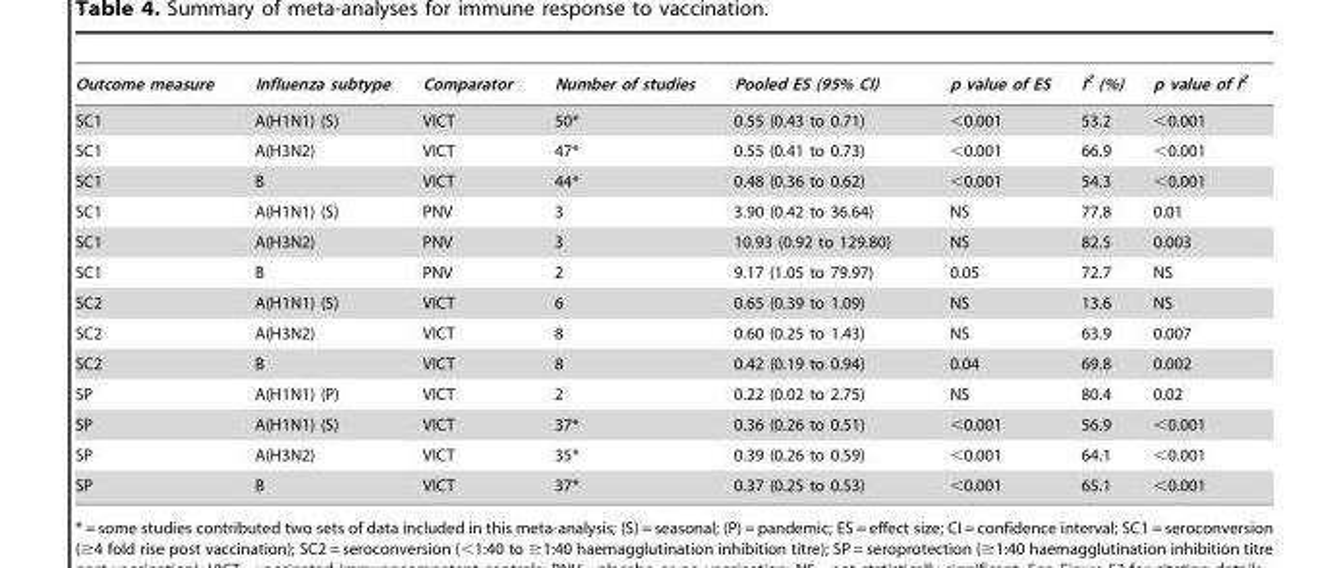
<table><thead><tr><td>Outcome measure</td><td>Influenza subtype</td><td>Comparator</td><td>Number of studies</td><td>Pooled ES (95% CI)</td><td>p value of ES</td><td>I<sup>2</sup> (%)</td><td>p value of I<sup>2</sup></td></tr></thead><tbody><tr><td>SC1</td><td>A(H1N1) (S)</td><td>VICT</td><td>50*</td><td>0.55 (0.43 to 0.71)</td><td>&lt;0.001</td><td>53.2</td><td>&lt;0.001</td></tr><tr><td>SC1</td><td>A(H3N2)</td><td>VICT</td><td>47*</td><td>0.55 (0.41 to 0.73)</td><td>&lt;0.001</td><td>66.9</td><td>&lt;0.001</td></tr><tr><td>SC1</td><td>B</td><td>VICT</td><td>44*</td><td>0.48 (0.36 to 0.62)</td><td>&lt;0.001</td><td>54.3</td><td>&lt;0.001</td></tr><tr><td>SC1</td><td>A(H1N1) (S)</td><td>PNV</td><td>3</td><td>3.90 (0.42 to 36.64)</td><td>NS</td><td>77.8</td><td>0.01</td></tr><tr><td>SC1</td><td>A(H3N2)</td><td>PNV</td><td>3</td><td>10.93 (0.92 to 129.80)</td><td>NS</td><td>82.5</td><td>0.003</td></tr><tr><td>SC1</td><td>B</td><td>PNV</td><td>2</td><td>9.17 (1.05 to 79.97)</td><td>0.05</td><td>72.7</td><td>NS</td></tr><tr><td>SC2</td><td>A(H1N1) (S)</td><td>VICT</td><td>6</td><td>0.65 (0.39 to 1.09)</td><td>NS</td><td>13.6</td><td>NS</td></tr><tr><td>SC2</td><td>A(H3N2)</td><td>VICT</td><td>8</td><td>0.60 (0.25 to 1.43)</td><td>NS</td><td>63.9</td><td>0.007</td></tr><tr><td>SC2</td><td>B</td><td>VICT</td><td>8</td><td>0.42 (0.19 to 0.94)</td><td>0.04</td><td>69.8</td><td>0.002</td></tr><tr><td>SP</td><td>A(H1N1) (P)</td><td>VICT</td><td>2</td><td>0.22 (0.02 to 2.75)</td><td>NS</td><td>80.4</td><td>0.02</td></tr><tr><td>SP</td><td>A(H1N1) (S)</td><td>VICT</td><td>37*</td><td>0.36 (0.26 to 0.51)</td><td>&lt;0.001</td><td>56.9</td><td>&lt;0.001</td></tr><tr><td>SP</td><td>A(H3N2)</td><td>VICT</td><td>35*</td><td>0.39 (0.26 to 0.59)</td><td>&lt;0.001</td><td>64.1</td><td>&lt;0.001</td></tr><tr><td>SP</td><td>B</td><td>VICT</td><td>37*</td><td>0.37 (0.25 to 0.53)</td><td>&lt;0.001</td><td>65.1</td><td>&lt;0.001</td></tr></tbody></table>